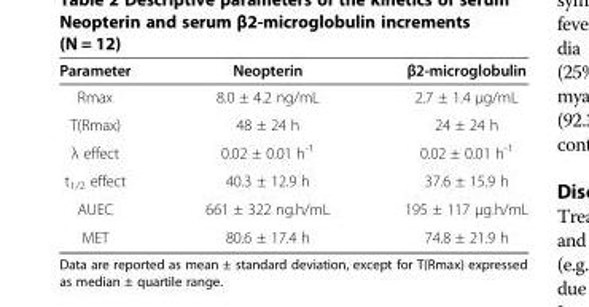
<table><thead><tr><td>Parameter</td><td>Neopterin</td><td>β2-microglobulin</td></tr></thead><tbody><tr><td>Rmax</td><td>8.0 ± 4.2 ng/mL</td><td>2.7 ± 1.4 μg/mL</td></tr><tr><td>T(Rmax)</td><td>48 ± 24 h</td><td>24 ± 24 h</td></tr><tr><td>λ effect</td><td>0.02 ± 0.01 h<sup>-1</sup></td><td>0.02 ± 0.01 h<sup>-1</sup></td></tr><tr><td>t<sub>1/2</sub> effect</td><td>40.3 ± 12.9 h</td><td>37.6 ± 15.9 h</td></tr><tr><td>AUEC</td><td>661 ± 322 ng.h/mL</td><td>195 ± 117 μg.h/mL</td></tr><tr><td>MET</td><td>80.6 ± 17.4 h</td><td>74.8 ± 21.9 h</td></tr></tbody></table>